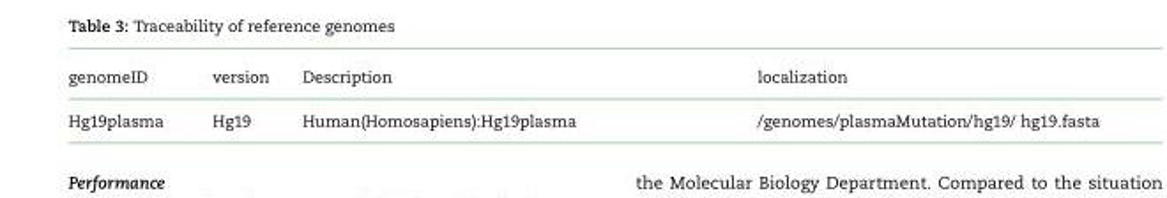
<table><thead><tr><td>genomeID</td><td>version</td><td>Description</td><td>localization</td></tr></thead><tbody><tr><td>Hg19plasma</td><td>Hg19</td><td>Human(Homosapiens):Hg19plasma</td><td>/genomes/plasmaMutation/hg19/ hg19.fasta</td></tr></tbody></table>